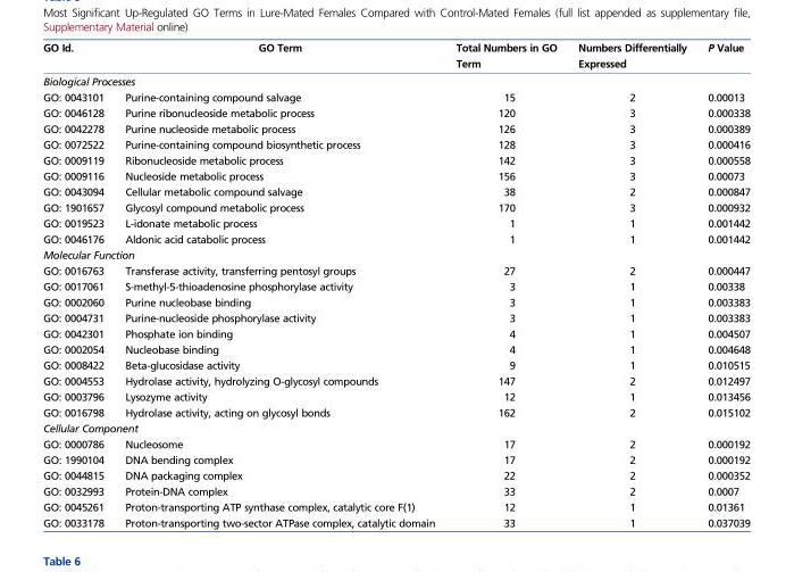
<table><thead><tr><td>GO Id.</td><td>GO Term</td><td>Total Numbers in GO Term</td><td>Numbers Differentially Expressed</td><td>P Value</td></tr></thead><tbody><tr><td colspan="5">Biological Processes</td></tr><tr><td>GO: 0043101</td><td>Purine-containing compound salvage</td><td>15</td><td>2</td><td>0.00013</td></tr><tr><td>GO: 0046128</td><td>Purine ribonucleoside metabolic process</td><td>120</td><td>3</td><td>0.000338</td></tr><tr><td>GO: 0042278</td><td>Purine nucleoside metabolic process</td><td>126</td><td>3</td><td>0.000389</td></tr><tr><td>GO: 0072522</td><td>Purine-containing compound biosynthetic process</td><td>128</td><td>3</td><td>0.000416</td></tr><tr><td>GO: 0009119</td><td>Ribonucleoside metabolic process</td><td>142</td><td>3</td><td>0.000558</td></tr><tr><td>GO: 0009116</td><td>Nucleoside metabolic process</td><td>156</td><td>3</td><td>0.00073</td></tr><tr><td>GO: 0043094</td><td>Cellular metabolic compound salvage</td><td>38</td><td>2</td><td>0.000847</td></tr><tr><td>GO: 1901657</td><td>Glycosyl compound metabolic process</td><td>170</td><td>3</td><td>0.000932</td></tr><tr><td>GO: 0019523</td><td>L-idonate metabolic process</td><td>1</td><td>1</td><td>0.001442</td></tr><tr><td>GO: 0046176</td><td>Aldonic acid catabolic process</td><td>1</td><td>1</td><td>0.001442</td></tr><tr><td colspan="5">Molecular Function</td></tr><tr><td>GO: 0016763</td><td>Transferase activity, transferring pentosyl groups</td><td>27</td><td>2</td><td>0.000447</td></tr><tr><td>GO: 0017061</td><td>S-methyl-5-thioadenosine phosphorylase activity</td><td>3</td><td>1</td><td>0.00338</td></tr><tr><td>GO: 0002060</td><td>Purine nucleobase binding</td><td>3</td><td>1</td><td>0.003383</td></tr><tr><td>GO: 0004731</td><td>Purine-nucleoside phosphorylase activity</td><td>3</td><td>1</td><td>0.003383</td></tr><tr><td>GO: 0042301</td><td>Phosphate ion binding</td><td>4</td><td>1</td><td>0.004507</td></tr><tr><td>GO: 0002054</td><td>Nucleobase binding</td><td>4</td><td>1</td><td>0.004648</td></tr><tr><td>GO: 0008422</td><td>Beta-glucosidase activity</td><td>9</td><td>1</td><td>0.010515</td></tr><tr><td>GO: 0004553</td><td>Hydrolase activity, hydrolyzing O-glycosyl compounds</td><td>147</td><td>2</td><td>0.012497</td></tr><tr><td>GO: 0003796</td><td>Lysozyme activity</td><td>12</td><td>1</td><td>0.013456</td></tr><tr><td>GO: 0016798</td><td>Hydrolase activity, acting on glycosyl bonds</td><td>162</td><td>2</td><td>0.015102</td></tr><tr><td colspan="5">Cellular Component</td></tr><tr><td>GO: 0000786</td><td>Nucleosome</td><td>17</td><td>2</td><td>0.000192</td></tr><tr><td>GO: 1990104</td><td>DNA bending complex</td><td>17</td><td>2</td><td>0.000192</td></tr><tr><td>GO: 0044815</td><td>DNA packaging complex</td><td>22</td><td>2</td><td>0.000352</td></tr><tr><td>GO: 0032993</td><td>Protein-DNA complex</td><td>33</td><td>2</td><td>0.0007</td></tr><tr><td>GO: 0045261</td><td>Proton-transporting ATP synthase complex, catalytic core F(1)</td><td>12</td><td>1</td><td>0.01361</td></tr><tr><td>GO: 0033178</td><td>Proton-transporting two-sector ATPase complex, catalytic domain</td><td>33</td><td>1</td><td>0.037039</td></tr></tbody></table>